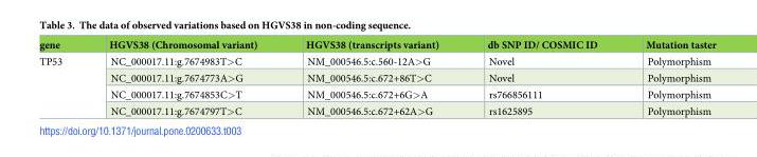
<table><thead><tr><td>gene</td><td>HGVS38 (Chromosomal variant)</td><td>HGVS38 (transcripts variant)</td><td>db SNP ID/ COSMIC ID</td><td>Mutation taster</td></tr></thead><tbody><tr><td rowspan="4">TP53</td><td>NC_000017.11:g.7674983T&gt;C</td><td>NM_000546.5:c.560-12A&gt;G</td><td>Novel</td><td>Polymorphism</td></tr><tr><td>NC_000017.11:g.7674773A&gt;G</td><td>NM_000546.5:c.672+86T&gt;C</td><td>Novel</td><td>Polymorphism</td></tr><tr><td>NC_000017.11:g.7674853C&gt;T</td><td>NM_000546.5:c.672+6G&gt;A</td><td>rs766856111</td><td>Polymorphism</td></tr><tr><td>NC_000017.11:g.7674797T&gt;C</td><td>NM_000546.5:c.672+62A&gt;G</td><td>rs1625895</td><td>Polymorphism</td></tr></tbody></table>